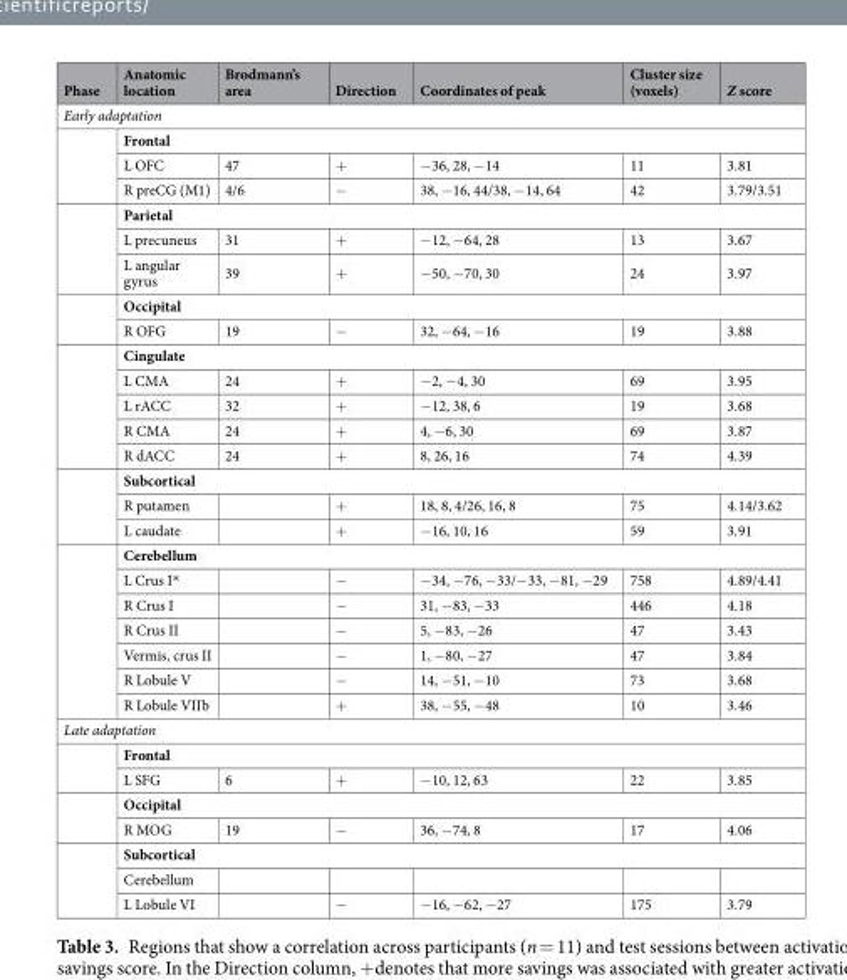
<table><thead><tr><td>Phase</td><td>Anatomic location</td><td>Brodmann’s area</td><td>Direction</td><td>Coordinates of peak</td><td>Cluster size (voxels)</td><td>Z score</td></tr></thead><tbody><tr><td colspan="7">Early adaptation</td></tr><tr><td rowspan="3"></td><td colspan="6">Frontal</td></tr><tr><td>L OFC</td><td>47</td><td>+</td><td>−36, 28, −14</td><td>11</td><td>3.81</td></tr><tr><td>R preCG (M1)</td><td>4/6</td><td>−</td><td>38, −16, 44/38, −14, 64</td><td>42</td><td>3.79/3.51</td></tr><tr><td rowspan="3"></td><td colspan="6">Parietal</td></tr><tr><td>L precuneus</td><td>31</td><td>+</td><td>−12, −64, 28</td><td>13</td><td>3.67</td></tr><tr><td>L angular gyrus</td><td>39</td><td>+</td><td>−50, −70, 30</td><td>24</td><td>3.97</td></tr><tr><td rowspan="2"></td><td colspan="6">Occipital</td></tr><tr><td>R OFG</td><td>19</td><td>−</td><td>32, −64, −16</td><td>19</td><td>3.88</td></tr><tr><td rowspan="5"></td><td colspan="6">Cingulate</td></tr><tr><td>L CMA</td><td>24</td><td>+</td><td>−2, −4, 30</td><td>69</td><td>3.95</td></tr><tr><td>L rACC</td><td>32</td><td>+</td><td>−12, 38, 6</td><td>19</td><td>3.68</td></tr><tr><td>R CMA</td><td>24</td><td>+</td><td>4, −6, 30</td><td>69</td><td>3.87</td></tr><tr><td>R dACC</td><td>24</td><td>+</td><td>8, 26, 16</td><td>74</td><td>4.39</td></tr><tr><td rowspan="3"></td><td colspan="6">Subcortical</td></tr><tr><td>R putamen</td><td></td><td>+</td><td>18, 8, 4/26, 16, 8</td><td>75</td><td>4.14/3.62</td></tr><tr><td>L caudate</td><td></td><td>+</td><td>−16, 10, 16</td><td>59</td><td>3.91</td></tr><tr><td rowspan="7"></td><td colspan="6">Cerebellum</td></tr><tr><td>L Crus I*</td><td></td><td>−</td><td>−34, −76, −33/−33, −81, −29</td><td>758</td><td>4.89/4.41</td></tr><tr><td>R Crus I</td><td></td><td>−</td><td>31, −83, −33</td><td>446</td><td>4.18</td></tr><tr><td>R Crus II</td><td></td><td>−</td><td>5, −83, −26</td><td>47</td><td>3.43</td></tr><tr><td>Vermis, crus II</td><td></td><td>−</td><td>1, −80, −27</td><td>47</td><td>3.84</td></tr><tr><td>R Lobule V</td><td></td><td>−</td><td>14, −51, −10</td><td>73</td><td>3.68</td></tr><tr><td>R Lobule VIIb</td><td></td><td>+</td><td>38, −55, −48</td><td>10</td><td>3.46</td></tr><tr><td colspan="7">Late adaptation</td></tr><tr><td rowspan="2"></td><td colspan="6">Frontal</td></tr><tr><td>L SFG</td><td>6</td><td>+</td><td>−10, 12, 63</td><td>22</td><td>3.85</td></tr><tr><td rowspan="2"></td><td colspan="6">Occipital</td></tr><tr><td>R MOG</td><td>19</td><td>−</td><td>36, −74, 8</td><td>17</td><td>4.06</td></tr><tr><td rowspan="3"></td><td colspan="6">Subcortical</td></tr><tr><td>Cerebellum</td><td></td><td></td><td></td><td></td><td></td></tr><tr><td>L Lobule VI</td><td></td><td>−</td><td>−16, −62, −27</td><td>175</td><td>3.79</td></tr></tbody></table>